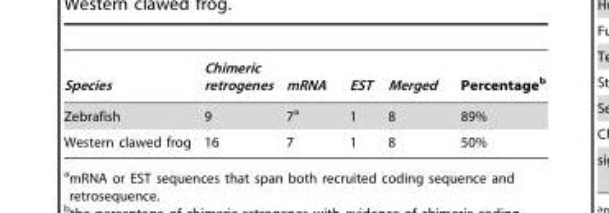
<table><thead><tr><td>Species</td><td>Chimeric retrogenes</td><td>mRNA</td><td>EST</td><td>Merged</td><td>Percentage<sup>b</sup></td></tr></thead><tbody><tr><td>Zebrafish</td><td>9</td><td>7<sup>a</sup></td><td>1</td><td>8</td><td>89%</td></tr><tr><td>Western clawed frog</td><td>16</td><td>7</td><td>1</td><td>8</td><td>50%</td></tr></tbody></table>